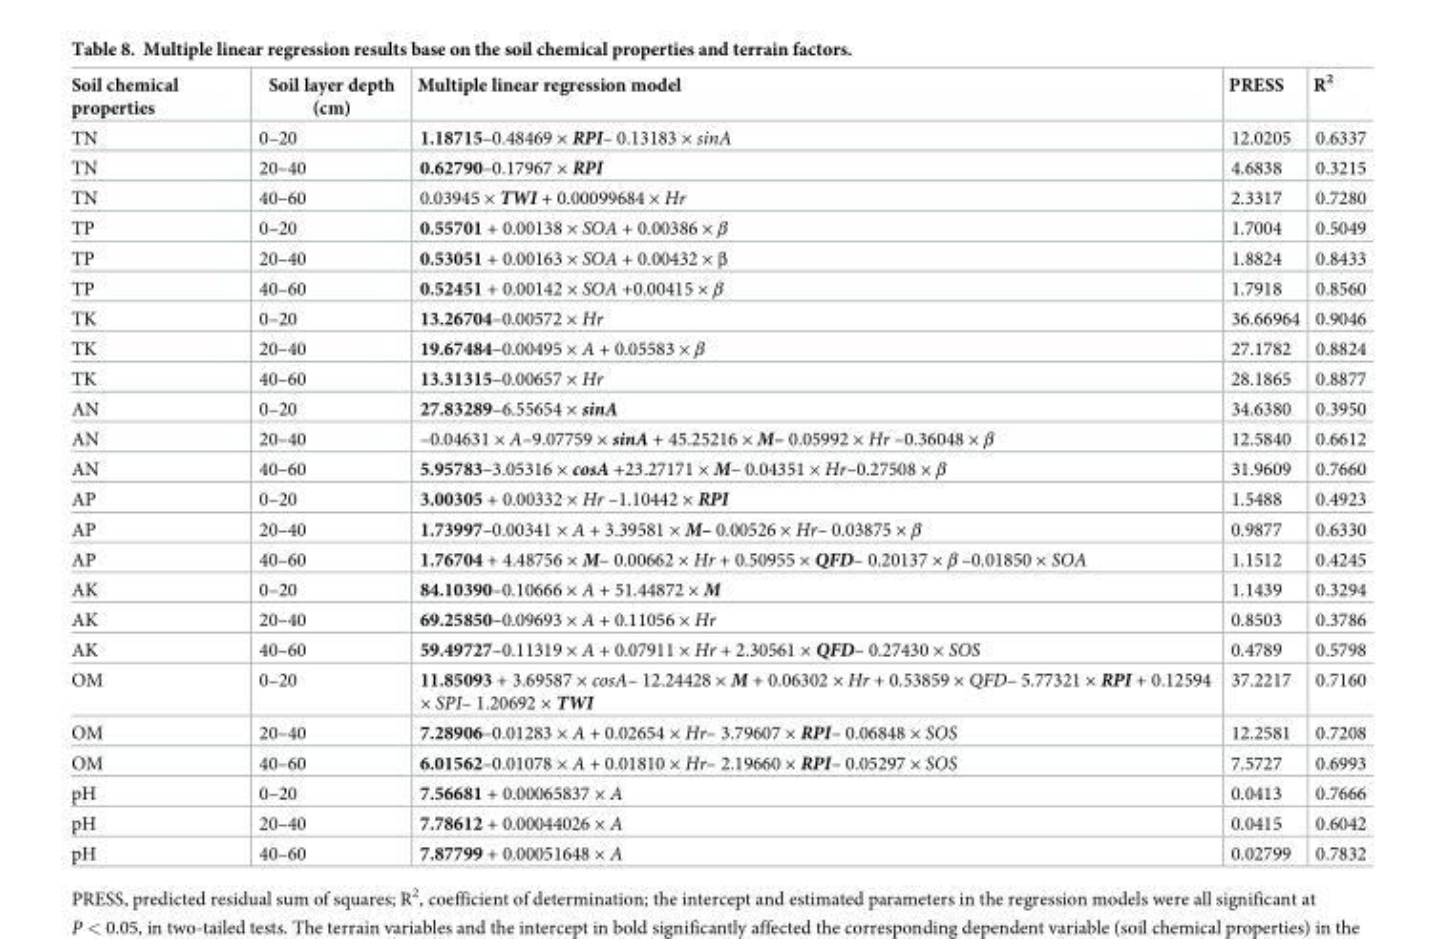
<table><thead><tr><td>Soil chemical properties</td><td>Soil layer depth (cm)</td><td>Multiple linear regression model</td><td>PRESS</td><td>R<sup>2</sup></td></tr></thead><tbody><tr><td>TN</td><td>0–20</td><td>1.18715–0.48469 × RPI– 0.13183 × sinA</td><td>12.0205</td><td>0.6337</td></tr><tr><td>TN</td><td>20–40</td><td>0.62790–0.17967 × RPI</td><td>4.6838</td><td>0.3215</td></tr><tr><td>TN</td><td>40–60</td><td>0.03945 × TWI + 0.00099684 × Hr</td><td>2.3317</td><td>0.7280</td></tr><tr><td>TP</td><td>0–20</td><td>0.55701 + 0.00138 × SOA + 0.00386 × β</td><td>1.7004</td><td>0.5049</td></tr><tr><td>TP</td><td>20–40</td><td>0.53051 + 0.00163 × SOA + 0.00432 × β</td><td>1.8824</td><td>0.8433</td></tr><tr><td>TP</td><td>40–60</td><td>0.52451 + 0.00142 × SOA +0.00415 × β</td><td>1.7918</td><td>0.8560</td></tr><tr><td>TK</td><td>0–20</td><td>13.26704–0.00572 × Hr</td><td>36.66964</td><td>0.9046</td></tr><tr><td>TK</td><td>20–40</td><td>19.67484–0.00495 × A + 0.05583 × β</td><td>27.1782</td><td>0.8824</td></tr><tr><td>TK</td><td>40–60</td><td>13.31315–0.00657 × Hr</td><td>28.1865</td><td>0.8877</td></tr><tr><td>AN</td><td>0–20</td><td>27.83289–6.55654 × sinA</td><td>34.6380</td><td>0.3950</td></tr><tr><td>AN</td><td>20–40</td><td>–0.04631 × A–9.07759 × sinA + 45.25216 × M– 0.05992 × Hr –0.36048 × β</td><td>12.5840</td><td>0.6612</td></tr><tr><td>AN</td><td>40–60</td><td>5.95783–3.05316 × cosA +23.27171 × M– 0.04351 × Hr–0.27508 × β</td><td>31.9609</td><td>0.7660</td></tr><tr><td>AP</td><td>0–20</td><td>3.00305 + 0.00332 × Hr –1.10442 × RPI</td><td>1.5488</td><td>0.4923</td></tr><tr><td>AP</td><td>20–40</td><td>1.73997–0.00341 × A + 3.39581 × M– 0.00526 × Hr– 0.03875 × β</td><td>0.9877</td><td>0.6330</td></tr><tr><td>AP</td><td>40–60</td><td>1.76704 + 4.48756 × M– 0.00662 × Hr + 0.50955 × QFD– 0.20137 × β –0.01850 × SOA</td><td>1.1512</td><td>0.4245</td></tr><tr><td>AK</td><td>0–20</td><td>84.10390–0.10666 × A + 51.44872 × M</td><td>1.1439</td><td>0.3294</td></tr><tr><td>AK</td><td>20–40</td><td>69.25850–0.09693 × A + 0.11056 × Hr</td><td>0.8503</td><td>0.3786</td></tr><tr><td>AK</td><td>40–60</td><td>59.49727–0.11319 × A + 0.07911 × Hr + 2.30561 × QFD– 0.27430 × SOS</td><td>0.4789</td><td>0.5798</td></tr><tr><td>OM</td><td>0–20</td><td>11.85093 + 3.69587 × cosA– 12.24428 × M + 0.06302 × Hr + 0.53859 × QFD– 5.77321 × RPI + 0.12594 × SPI– 1.20692 × TWI</td><td>37.2217</td><td>0.7160</td></tr><tr><td>OM</td><td>20–40</td><td>7.28906–0.01283 × A + 0.02654 × Hr– 3.79607 × RPI– 0.06848 × SOS</td><td>12.2581</td><td>0.7208</td></tr><tr><td>OM</td><td>40–60</td><td>6.01562–0.01078 × A + 0.01810 × Hr– 2.19660 × RPI– 0.05297 × SOS</td><td>7.5727</td><td>0.6993</td></tr><tr><td>pH</td><td>0–20</td><td>7.56681 + 0.00065837 × A</td><td>0.0413</td><td>0.7666</td></tr><tr><td>pH</td><td>20–40</td><td>7.78612 + 0.00044026 × A</td><td>0.0415</td><td>0.6042</td></tr><tr><td>pH</td><td>40–60</td><td>7.87799 + 0.00051648 × A</td><td>0.02799</td><td>0.7832</td></tr></tbody></table>